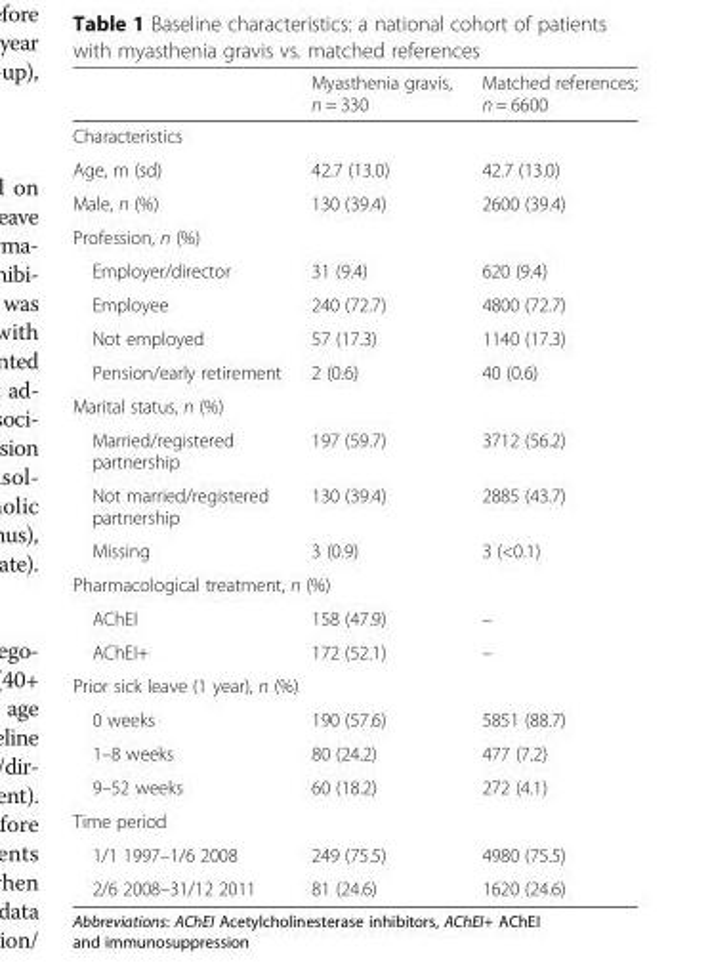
<table><thead><tr><td></td><td>Myasthenia gravis, n = 330</td><td>Matched references; n = 6600</td></tr></thead><tbody><tr><td colspan="3">Characteristics</td></tr><tr><td>Age, m (sd)</td><td>42.7 (13.0)</td><td>42.7 (13.0)</td></tr><tr><td>Male, n (%)</td><td>130 (39.4)</td><td>2600 (39.4)</td></tr><tr><td colspan="3">Profession, n (%)</td></tr><tr><td>Employer/director</td><td>31 (9.4)</td><td>620 (9.4)</td></tr><tr><td>Employee</td><td>240 (72.7)</td><td>4800 (72.7)</td></tr><tr><td>Not employed</td><td>57 (17.3)</td><td>1140 (17.3)</td></tr><tr><td>Pension/early retirement</td><td>2 (0.6)</td><td>40 (0.6)</td></tr><tr><td colspan="3">Marital status, n (%)</td></tr><tr><td>Married/registered partnership</td><td>197 (59.7)</td><td>3712 (56.2)</td></tr><tr><td>Not married/registered partnership</td><td>130 (39.4)</td><td>2885 (43.7)</td></tr><tr><td>Missing</td><td>3 (0.9)</td><td>3 (&lt;0.1)</td></tr><tr><td colspan="3">Pharmacological treatment, n (%)</td></tr><tr><td>AChEI</td><td>158 (47.9)</td><td>–</td></tr><tr><td>AChEI+</td><td>172 (52.1)</td><td>–</td></tr><tr><td colspan="3">Prior sick leave (1 year), n (%)</td></tr><tr><td>0 weeks</td><td>190 (57.6)</td><td>5851 (88.7)</td></tr><tr><td>1–8 weeks</td><td>80 (24.2)</td><td>477 (7.2)</td></tr><tr><td>9–52 weeks</td><td>60 (18.2)</td><td>272 (4.1)</td></tr><tr><td colspan="3">Time period</td></tr><tr><td>1/1 1997–1/6 2008</td><td>249 (75.5)</td><td>4980 (75.5)</td></tr><tr><td>2/6 2008–31/12 2011</td><td>81 (24.6)</td><td>1620 (24.6)</td></tr></tbody></table>